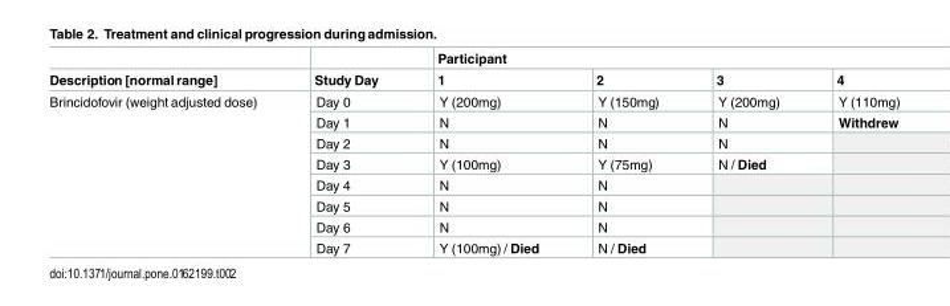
<table><thead><tr><td rowspan="2">Description [normal range]</td><td rowspan="2">Study Day</td><td colspan="4">Participant</td></tr><tr><td>1</td><td>2</td><td>3</td><td>4</td></tr></thead><tbody><tr><td rowspan="8">Brincidofovir (weight adjusted dose)</td><td>Day 0</td><td>Y (200mg)</td><td>Y (150mg)</td><td>Y (200mg)</td><td>Y (110mg)</td></tr><tr><td>Day 1</td><td>N</td><td>N</td><td>N</td><td>Withdrew</td></tr><tr><td>Day 2</td><td>N</td><td>N</td><td>N</td><td></td></tr><tr><td>Day 3</td><td>Y (100mg)</td><td>Y (75mg)</td><td>N / Died</td><td></td></tr><tr><td>Day 4</td><td>N</td><td>N</td><td></td><td></td></tr><tr><td>Day 5</td><td>N</td><td>N</td><td></td><td></td></tr><tr><td>Day 6</td><td>N</td><td>N</td><td></td><td></td></tr><tr><td>Day 7</td><td>Y (100mg) / Died</td><td>N / Died</td><td></td><td></td></tr></tbody></table>